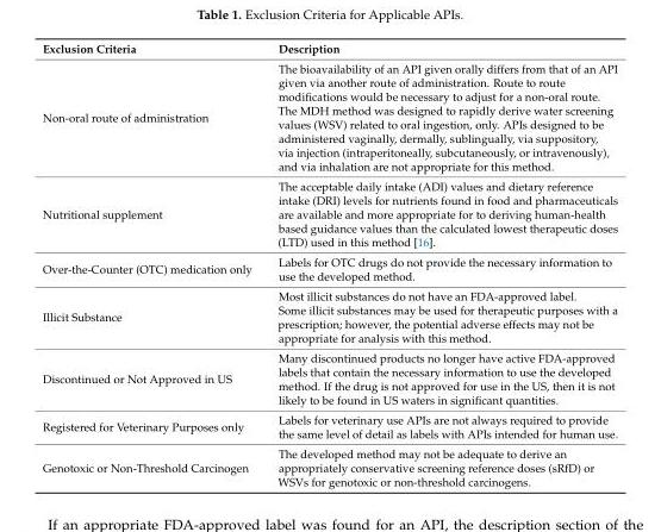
<table><thead><tr><td>Exclusion Criteria</td><td>Description</td></tr></thead><tbody><tr><td>Non-oral route of administration</td><td>The bioavailability of an API given orally differs from that of an API given via another route of administration. Route to route modifications would be necessary to adjust for a non-oral route. The MDH method was designed to rapidly derive water screening values (WSV) related to oral ingestion, only. APIs designed to be administered vaginally, dermally, sublingually, via suppository, via injection (intraperitoneally, subcutaneously, or intravenously), and via inhalation are not appropriate for this method.</td></tr><tr><td>Nutritional supplement</td><td>The acceptable daily intake (ADI) values and dietary reference intake (DRI) levels for nutrients found in food and pharmaceuticals are available and more appropriate for to deriving human-health based guidance values than the calculated lowest therapeutic doses (LTD) used in this method [16].</td></tr><tr><td>Over-the-Counter (OTC) medication only</td><td>Labels for OTC drugs do not provide the necessary information to use the developed method.</td></tr><tr><td>Illicit Substance</td><td>Most illicit substances do not have an FDA-approved label. Some illicit substances may be used for therapeutic purposes with a prescription; however, the potential adverse effects may not be appropriate for analysis with this method.</td></tr><tr><td>Discontinued or Not Approved in US</td><td>Many discontinued products no longer have active FDA-approved labels that contain the necessary information to use the developed method. If the drug is not approved for use in the US, then it is not likely to be found in US waters in significant quantities.</td></tr><tr><td>Registered for Veterinary Purposes only</td><td>Labels for veterinary use APIs are not always required to provide the same level of detail as labels with APIs intended for human use.</td></tr><tr><td>Genotoxic or Non-Threshold Carcinogen</td><td>The developed method may not be adequate to derive an appropriately conservative screening reference doses (sRfD) or WSVs for genotoxic or non-threshold carcinogens.</td></tr></tbody></table>